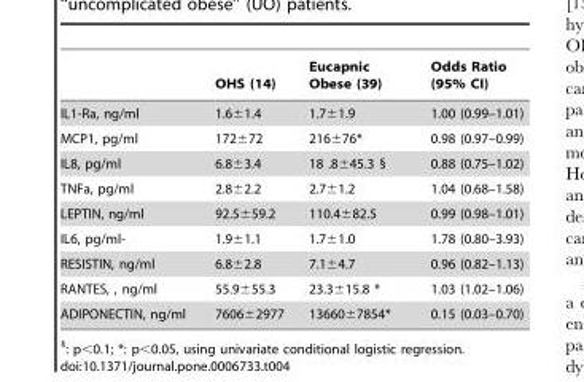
<table><thead><tr><td></td><td>OHS (14)</td><td>Eucapnic Obese (39)</td><td>Odds Ratio (95% CI)</td></tr></thead><tbody><tr><td>IL1-Ra, ng/ml</td><td>1.6±1.4</td><td>1.7±1.9</td><td>1.00 (0.99–1.01)</td></tr><tr><td>MCP1, pg/ml</td><td>172±72</td><td>216±76*</td><td>0.98 (0.97–0.99)</td></tr><tr><td>IL8, pg/ml</td><td>6.8±3.4</td><td>18 .8±45.3 §</td><td>0.88 (0.75–1.02)</td></tr><tr><td>TNFa, pg/ml</td><td>2.8±2.2</td><td>2.7±1.2</td><td>1.04 (0.68–1.58)</td></tr><tr><td>LEPTIN, ng/ml</td><td>92.5±59.2</td><td>110.4±82.5</td><td>0.99 (0.98–1.01)</td></tr><tr><td>IL6, pg/ml-</td><td>1.9±1.1</td><td>1.7±1.0</td><td>1.78 (0.80–3.93)</td></tr><tr><td>RESISTIN, ng/ml</td><td>6.8±2.8</td><td>7.1±4.7</td><td>0.96 (0.82–1.13)</td></tr><tr><td>RANTES, , ng/ml</td><td>55.9±55.3</td><td>23.3±15.8 *</td><td>1.03 (1.02–1.06)</td></tr><tr><td>ADIPONECTIN, ng/ml</td><td>7606±2977</td><td>13660±7854*</td><td>0.15 (0.03–0.70)</td></tr></tbody></table>